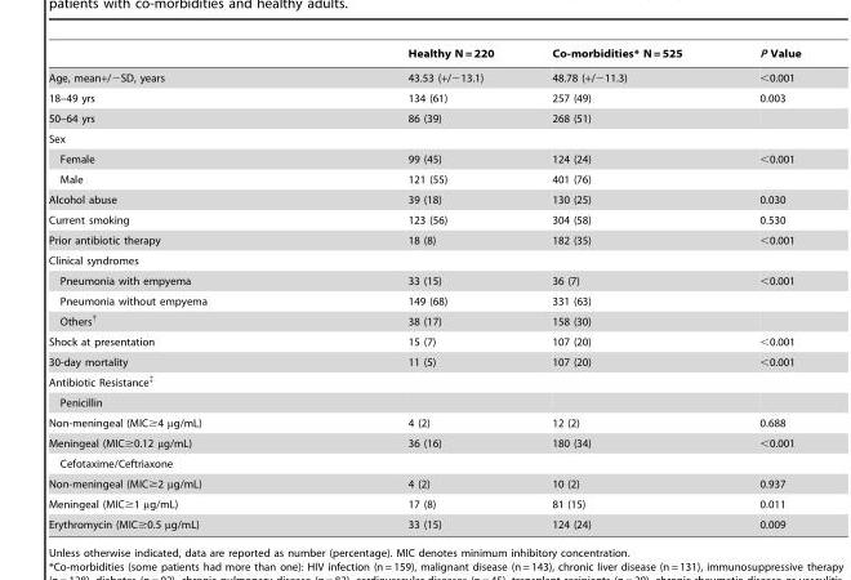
<table><thead><tr><td></td><td>Healthy N = 220</td><td>Co-morbidities* N = 525</td><td>P Value</td></tr></thead><tbody><tr><td>Age, mean+/−SD, years</td><td>43.53 (+/−13.1)</td><td>48.78 (+/−11.3)</td><td>&lt;0.001</td></tr><tr><td>18–49 yrs</td><td>134 (61)</td><td>257 (49)</td><td>0.003</td></tr><tr><td>50–64 yrs</td><td>86 (39)</td><td>268 (51)</td><td></td></tr><tr><td colspan="4">Sex</td></tr><tr><td>Female</td><td>99 (45)</td><td>124 (24)</td><td>&lt;0.001</td></tr><tr><td>Male</td><td>121 (55)</td><td>401 (76)</td><td></td></tr><tr><td>Alcohol abuse</td><td>39 (18)</td><td>130 (25)</td><td>0.030</td></tr><tr><td>Current smoking</td><td>123 (56)</td><td>304 (58)</td><td>0.530</td></tr><tr><td>Prior antibiotic therapy</td><td>18 (8)</td><td>182 (35)</td><td>&lt;0.001</td></tr><tr><td colspan="4">Clinical syndromes</td></tr><tr><td>Pneumonia with empyema</td><td>33 (15)</td><td>36 (7)</td><td>&lt;0.001</td></tr><tr><td>Pneumonia without empyema</td><td>149 (68)</td><td>331 (63)</td><td></td></tr><tr><td>Others†</td><td>38 (17)</td><td>158 (30)</td><td></td></tr><tr><td>Shock at presentation</td><td>15 (7)</td><td>107 (20)</td><td>&lt;0.001</td></tr><tr><td>30-day mortality</td><td>11 (5)</td><td>107 (20)</td><td>&lt;0.001</td></tr><tr><td colspan="4">Antibiotic Resistance‡</td></tr><tr><td colspan="4">Penicillin</td></tr><tr><td>Non-meningeal (MIC≥4 µg/mL)</td><td>4 (2)</td><td>12 (2)</td><td>0.688</td></tr><tr><td>Meningeal (MIC≥0.12 µg/mL)</td><td>36 (16)</td><td>180 (34)</td><td>&lt;0.001</td></tr><tr><td colspan="4">Cefotaxime/Ceftriaxone</td></tr><tr><td>Non-meningeal (MIC≥2 µg/mL)</td><td>4 (2)</td><td>10 (2)</td><td>0.937</td></tr><tr><td>Meningeal (MIC≥1 µg/mL)</td><td>17 (8)</td><td>81 (15)</td><td>0.011</td></tr><tr><td>Erythromycin (MIC≥0.5 µg/mL)</td><td>33 (15)</td><td>124 (24)</td><td>0.009</td></tr></tbody></table>